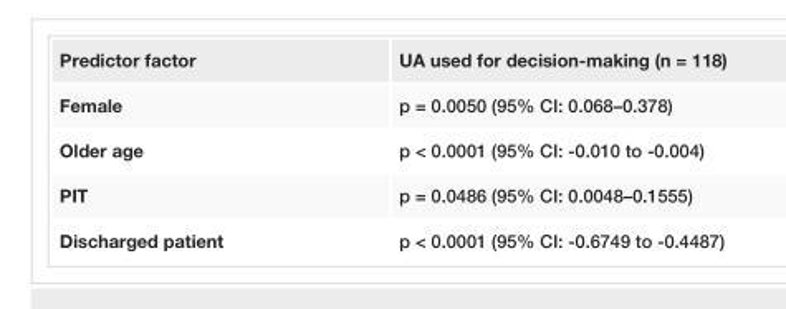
<table><tbody><tr><td>Predictor factor</td><td>UA used for decision-making (n = 118)</td></tr><tr><td>Female</td><td>p = 0.0050 (95% CI: 0.068–0.378)</td></tr><tr><td>Older age</td><td>p &lt; 0.0001 (95% CI: -0.010 to -0.004)</td></tr><tr><td>PIT</td><td>p = 0.0486 (95% CI: 0.0048–0.1555)</td></tr><tr><td>Discharged patient</td><td>p &lt; 0.0001 (95% CI: -0.6749 to -0.4487)</td></tr></tbody></table>